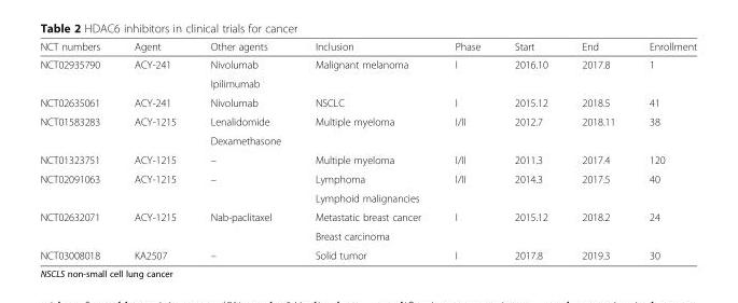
<table><thead><tr><td>NCT numbers</td><td>Agent</td><td>Other agents</td><td>Inclusion</td><td>Phase</td><td>Start</td><td>End</td><td>Enrollment</td></tr></thead><tbody><tr><td rowspan="2">NCT02935790</td><td rowspan="2">ACY-241</td><td>Nivolumab</td><td rowspan="2">Malignant melanoma</td><td rowspan="2">I</td><td rowspan="2">2016.10</td><td rowspan="2">2017.8</td><td rowspan="2">1</td></tr><tr><td>Ipilimumab</td></tr><tr><td>NCT02635061</td><td>ACY-241</td><td>Nivolumab</td><td>NSCLC</td><td>I</td><td>2015.12</td><td>2018.5</td><td>41</td></tr><tr><td rowspan="2">NCT01583283</td><td rowspan="2">ACY-1215</td><td>Lenalidomide</td><td rowspan="2">Multiple myeloma</td><td rowspan="2">I/II</td><td rowspan="2">2012.7</td><td rowspan="2">2018.11</td><td rowspan="2">38</td></tr><tr><td>Dexamethasone</td></tr><tr><td>NCT01323751</td><td>ACY-1215</td><td>–</td><td>Multiple myeloma</td><td>I/II</td><td>2011.3</td><td>2017.4</td><td>120</td></tr><tr><td rowspan="2">NCT02091063</td><td rowspan="2">ACY-1215</td><td rowspan="2">–</td><td>Lymphoma</td><td rowspan="2">I/II</td><td rowspan="2">2014.3</td><td rowspan="2">2017.5</td><td rowspan="2">40</td></tr><tr><td>Lymphoid malignancies</td></tr><tr><td rowspan="2">NCT02632071</td><td rowspan="2">ACY-1215</td><td rowspan="2">Nab-paclitaxel</td><td>Metastatic breast cancer</td><td rowspan="2">I</td><td rowspan="2">2015.12</td><td rowspan="2">2018.2</td><td rowspan="2">24</td></tr><tr><td>Breast carcinoma</td></tr><tr><td>NCT03008018</td><td>KA2507</td><td>–</td><td>Solid tumor</td><td>I</td><td>2017.8</td><td>2019.3</td><td>30</td></tr></tbody></table>